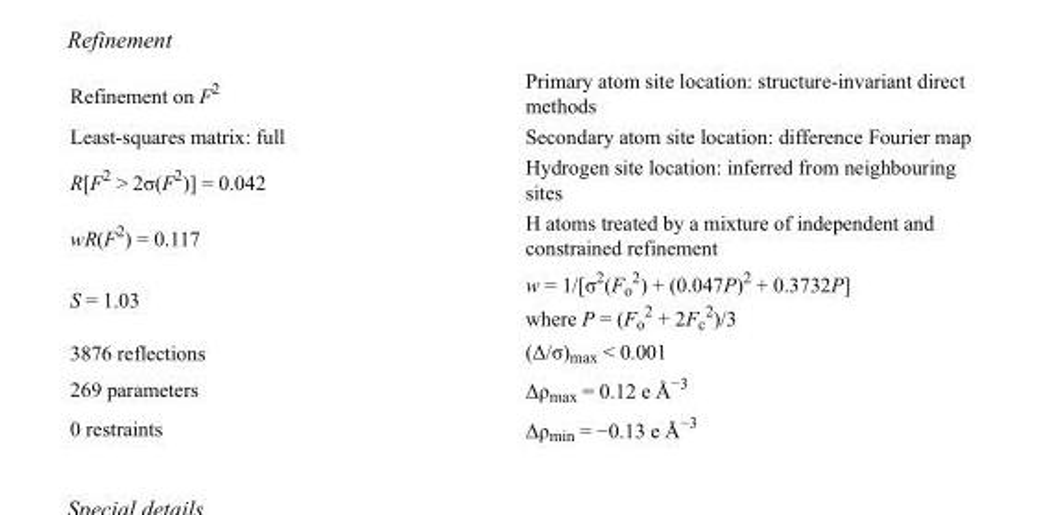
<table><tbody><tr><td>Refinement on F<sup>2</sup></td><td>Primary atom site location: structure-invariant direct methods</td></tr><tr><td>Least-squares matrix: full</td><td>Secondary atom site location: difference Fourier map</td></tr><tr><td>R[F<sup>2</sup> &gt; 2σ(F<sup>2</sup>)] = 0.042</td><td>Hydrogen site location: inferred from neighbouring sites</td></tr><tr><td>wR(F<sup>2</sup>) = 0.117</td><td>H atoms treated by a mixture of independent and constrained refinement</td></tr><tr><td>S = 1.03</td><td>w = 1/[σ<sup>2</sup>(F<sub>o</sub> <sup>2</sup>) + (0.047P)<sup>2</sup> + 0.3732P] where P = (F<sub>o</sub> <sup>2</sup> + 2F<sub>c</sub> <sup>2</sup>)/3</td></tr><tr><td>3876 reflections</td><td>(Δ/σ)<sub>max</sub> &lt; 0.001</td></tr><tr><td>269 parameters</td><td>Δρ<sub>max</sub> = 0.12 e Å<sup>−3</sup></td></tr><tr><td>0 restraints</td><td>Δρ<sub>min</sub> = −0.13 e Å<sup>−3</sup></td></tr></tbody></table>